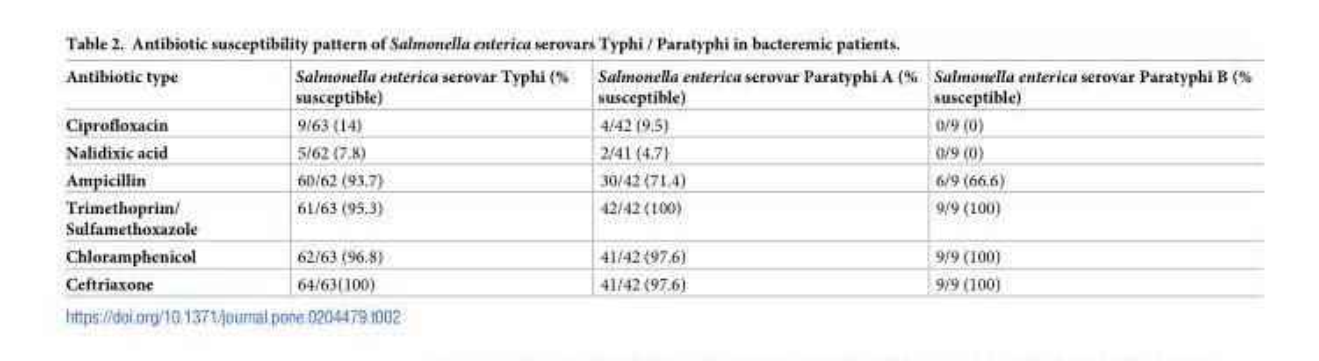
<table><thead><tr><td>Antibiotic type</td><td>Salmonella enterica serovar Typhi (% susceptible)</td><td>Salmonella enterica serovar Paratyphi A (% susceptible)</td><td>Salmonella enterica serovar Paratyphi B (% susceptible)</td></tr></thead><tbody><tr><td>Ciprofloxacin</td><td>9/63 (14)</td><td>4/42 (9.5)</td><td>0/9 (0)</td></tr><tr><td>Nalidixic acid</td><td>5/62 (7.8)</td><td>2/41 (4.7)</td><td>0/9 (0)</td></tr><tr><td>Ampicillin</td><td>60/62 (93.7)</td><td>30/42 (71.4)</td><td>6/9 (66.6)</td></tr><tr><td>Trimethoprim/ Sulfamethoxazole</td><td>61/63 (95.3)</td><td>42/42 (100)</td><td>9/9 (100)</td></tr><tr><td>Chloramphenicol</td><td>62/63 (96.8)</td><td>41/42 (97.6)</td><td>9/9 (100)</td></tr><tr><td>Ceftriaxone</td><td>64/63(100)</td><td>41/42 (97.6)</td><td>9/9 (100)</td></tr></tbody></table>